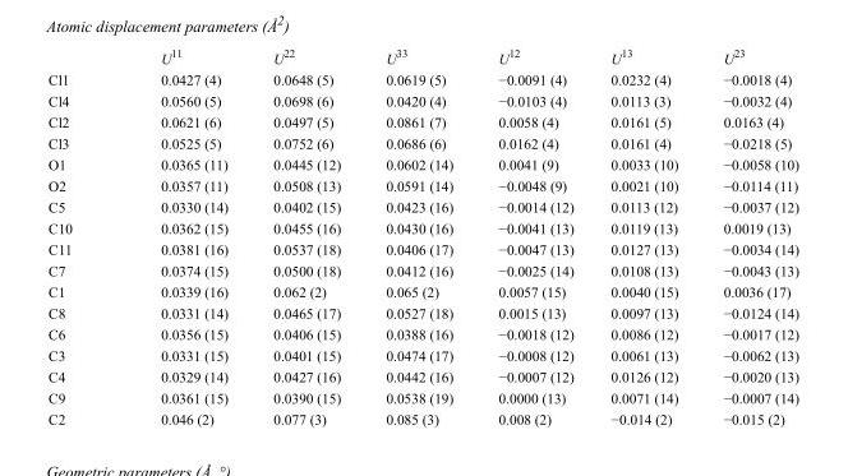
<table><thead><tr><td></td><td>U<sup>11</sup></td><td>U<sup>22</sup></td><td>U<sup>33</sup></td><td>U<sup>12</sup></td><td>U<sup>13</sup></td><td>U<sup>23</sup></td></tr></thead><tbody><tr><td>Cl1</td><td>0.0427 (4)</td><td>0.0648 (5)</td><td>0.0619 (5)</td><td>−0.0091 (4)</td><td>0.0232 (4)</td><td>−0.0018 (4)</td></tr><tr><td>Cl4</td><td>0.0560 (5)</td><td>0.0698 (6)</td><td>0.0420 (4)</td><td>−0.0103 (4)</td><td>0.0113 (3)</td><td>−0.0032 (4)</td></tr><tr><td>Cl2</td><td>0.0621 (6)</td><td>0.0497 (5)</td><td>0.0861 (7)</td><td>0.0058 (4)</td><td>0.0161 (5)</td><td>0.0163 (4)</td></tr><tr><td>Cl3</td><td>0.0525 (5)</td><td>0.0752 (6)</td><td>0.0686 (6)</td><td>0.0162 (4)</td><td>0.0161 (4)</td><td>−0.0218 (5)</td></tr><tr><td>O1</td><td>0.0365 (11)</td><td>0.0445 (12)</td><td>0.0602 (14)</td><td>0.0041 (9)</td><td>0.0033 (10)</td><td>−0.0058 (10)</td></tr><tr><td>O2</td><td>0.0357 (11)</td><td>0.0508 (13)</td><td>0.0591 (14)</td><td>−0.0048 (9)</td><td>0.0021 (10)</td><td>−0.0114 (11)</td></tr><tr><td>C5</td><td>0.0330 (14)</td><td>0.0402 (15)</td><td>0.0423 (16)</td><td>−0.0014 (12)</td><td>0.0113 (12)</td><td>−0.0037 (12)</td></tr><tr><td>C10</td><td>0.0362 (15)</td><td>0.0455 (16)</td><td>0.0430 (16)</td><td>−0.0041 (13)</td><td>0.0119 (13)</td><td>0.0019 (13)</td></tr><tr><td>C11</td><td>0.0381 (16)</td><td>0.0537 (18)</td><td>0.0406 (17)</td><td>−0.0047 (13)</td><td>0.0127 (13)</td><td>−0.0034 (14)</td></tr><tr><td>C7</td><td>0.0374 (15)</td><td>0.0500 (18)</td><td>0.0412 (16)</td><td>−0.0025 (14)</td><td>0.0108 (13)</td><td>−0.0043 (13)</td></tr><tr><td>C1</td><td>0.0339 (16)</td><td>0.062 (2)</td><td>0.065 (2)</td><td>0.0057 (15)</td><td>0.0040 (15)</td><td>0.0036 (17)</td></tr><tr><td>C8</td><td>0.0331 (14)</td><td>0.0465 (17)</td><td>0.0527 (18)</td><td>0.0015 (13)</td><td>0.0097 (13)</td><td>−0.0124 (14)</td></tr><tr><td>C6</td><td>0.0356 (15)</td><td>0.0406 (15)</td><td>0.0388 (16)</td><td>−0.0018 (12)</td><td>0.0086 (12)</td><td>−0.0017 (12)</td></tr><tr><td>C3</td><td>0.0331 (15)</td><td>0.0401 (15)</td><td>0.0474 (17)</td><td>−0.0008 (12)</td><td>0.0061 (13)</td><td>−0.0062 (13)</td></tr><tr><td>C4</td><td>0.0329 (14)</td><td>0.0427 (16)</td><td>0.0442 (16)</td><td>−0.0007 (12)</td><td>0.0126 (12)</td><td>−0.0020 (13)</td></tr><tr><td>C9</td><td>0.0361 (15)</td><td>0.0390 (15)</td><td>0.0538 (19)</td><td>0.0000 (13)</td><td>0.0071 (14)</td><td>−0.0007 (14)</td></tr><tr><td>C2</td><td>0.046 (2)</td><td>0.077 (3)</td><td>0.085 (3)</td><td>0.008 (2)</td><td>−0.014 (2)</td><td>−0.015 (2)</td></tr></tbody></table>